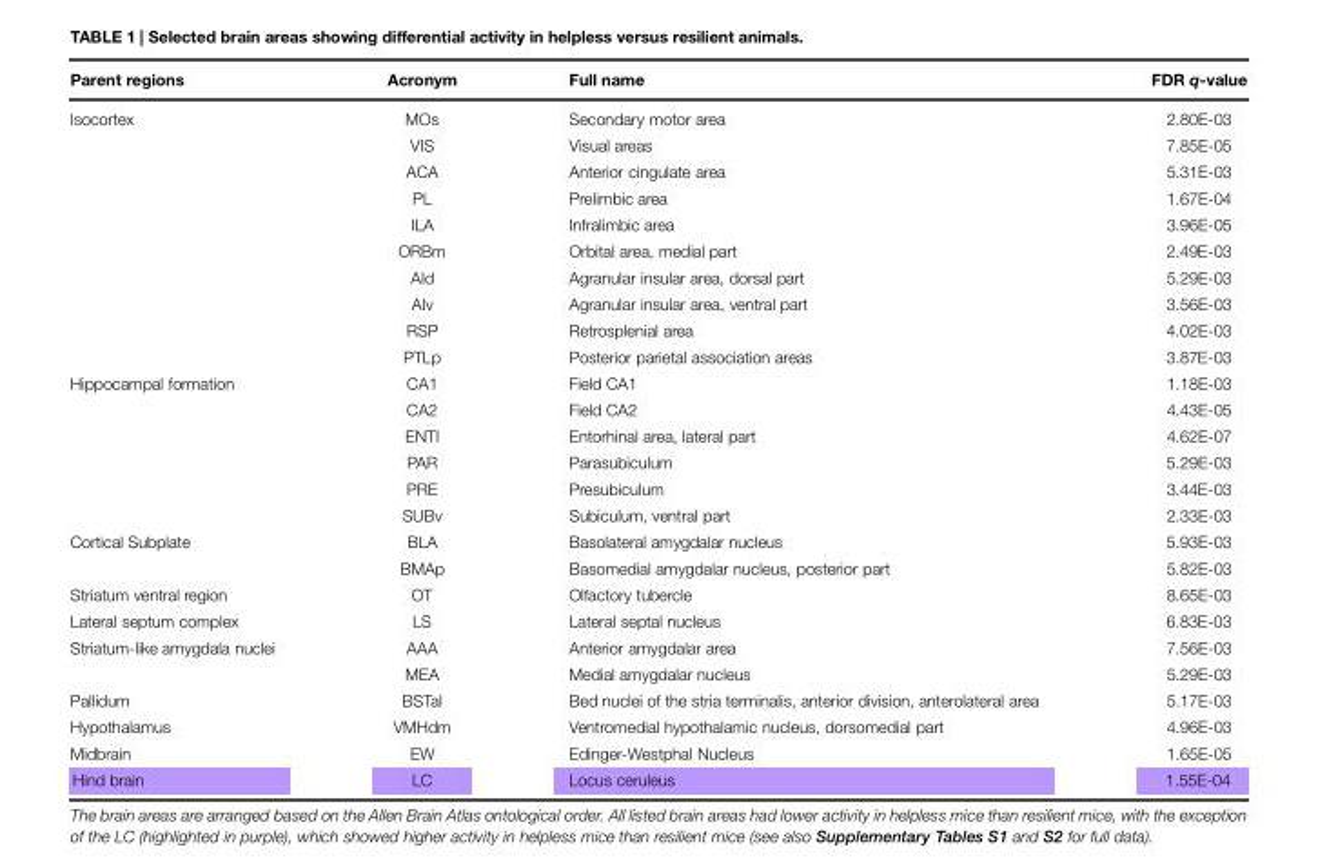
<table><thead><tr><td>Parent regions</td><td>Acronym</td><td>Full name</td><td>FDR q-value</td></tr></thead><tbody><tr><td rowspan="10">Isocortex</td><td>MOs</td><td>Secondary motor area</td><td>2.80E-03</td></tr><tr><td>VIS</td><td>Visual areas</td><td>7.85E-05</td></tr><tr><td>ACA</td><td>Anterior cingulate area</td><td>5.31E-03</td></tr><tr><td>PL</td><td>Prelimbic area</td><td>1.67E-04</td></tr><tr><td>ILA</td><td>Infralimbic area</td><td>3.96E-05</td></tr><tr><td>ORBm</td><td>Orbital area, medial part</td><td>2.49E-03</td></tr><tr><td>AId</td><td>Agranular insular area, dorsal part</td><td>5.29E-03</td></tr><tr><td>AIv</td><td>Agranular insular area, ventral part</td><td>3.56E-03</td></tr><tr><td>RSP</td><td>Retrosplenial area</td><td>4.02E-03</td></tr><tr><td>PTLp</td><td>Posterior parietal association areas</td><td>3.87E-03</td></tr><tr><td rowspan="6">Hippocampal formation</td><td>CA1</td><td>Field CA1</td><td>1.18E-03</td></tr><tr><td>CA2</td><td>Field CA2</td><td>4.43E-05</td></tr><tr><td>ENTI</td><td>Entorhinal area, lateral part</td><td>4.62E-07</td></tr><tr><td>PAR</td><td>Parasubiculum</td><td>5.29E-03</td></tr><tr><td>PRE</td><td>Presubiculum</td><td>3.44E-03</td></tr><tr><td>SUBv</td><td>Subiculum, ventral part</td><td>2.33E-03</td></tr><tr><td rowspan="2">Cortical Subplate</td><td>BLA</td><td>Basolateral amygdalar nucleus</td><td>5.93E-03</td></tr><tr><td>BMAp</td><td>Basomedial amygdalar nucleus, posterior part</td><td>5.82E-03</td></tr><tr><td>Striatum ventral region</td><td>OT</td><td>Olfactory tubercle</td><td>8.65E-03</td></tr><tr><td>Lateral septum complex</td><td>LS</td><td>Lateral septal nucleus</td><td>6.83E-03</td></tr><tr><td rowspan="2">Striatum-like amygdala nuclei</td><td>AAA</td><td>Anterior amygdalar area</td><td>7.56E-03</td></tr><tr><td>MEA</td><td>Medial amygdalar nucleus</td><td>5.29E-03</td></tr><tr><td>Pallidum</td><td>BSTal</td><td>Bed nuclei of the stria terminalis, anterior division, anterolateral area</td><td>5.17E-03</td></tr><tr><td>Hypothalamus</td><td>VMHdm</td><td>Ventromedial hypothalamic nucleus, dorsomedial part</td><td>4.96E-03</td></tr><tr><td>Midbrain</td><td>EW</td><td>Edinger-Westphal Nucleus</td><td>1.65E-05</td></tr><tr><td>Hind brain</td><td>LC</td><td>Locus ceruleus</td><td>1.55E-04</td></tr></tbody></table>